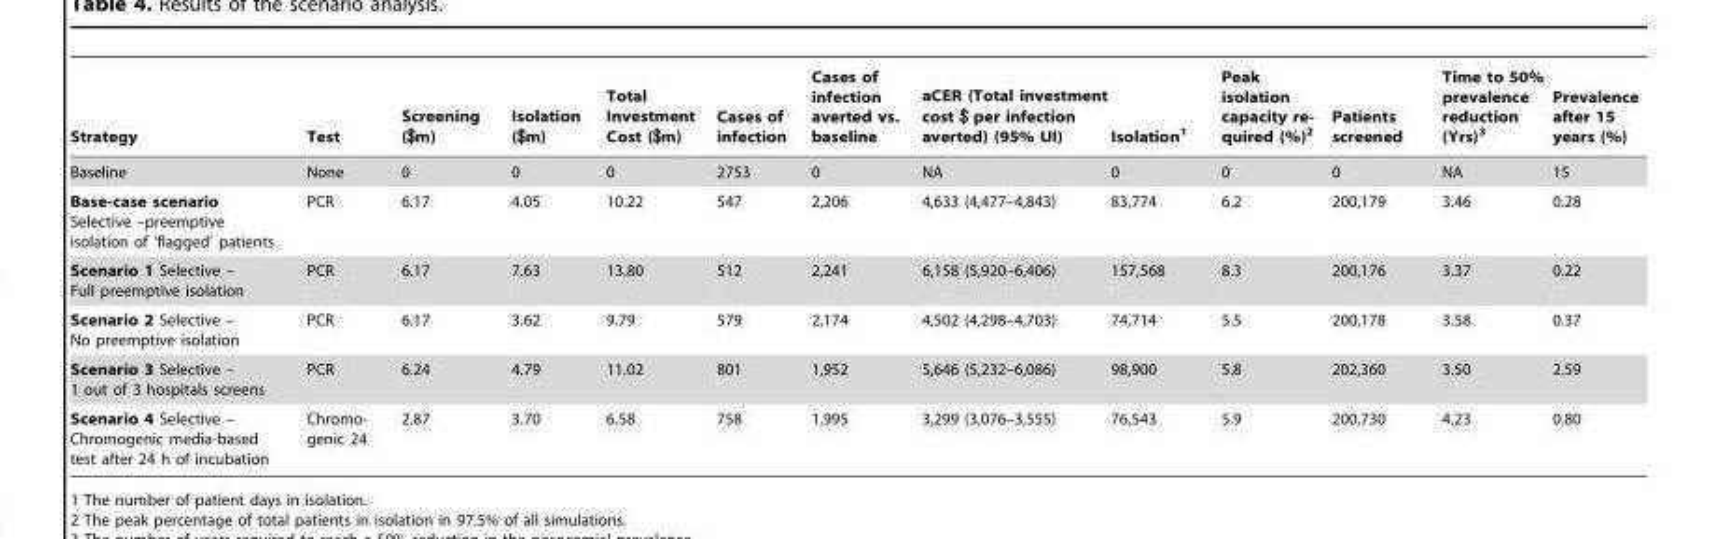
<table><thead><tr><td>Strategy</td><td>Test</td><td>Screening ($m)</td><td>Isolation ($m)</td><td>Total Investment Cost ($m)</td><td>Cases of infection</td><td>Cases of infection averted vs. baseline</td><td>aCER (Total investment cost $ per infection averted) (95% UI)</td><td>Isolation<sup>1</sup></td><td>Peak isolation capacity re- quired (%)2</td><td>Patients screened</td><td>Time to 50% prevalence reduction (Yrs)<sup>3</sup></td><td>Prevalence after 15 years (%)</td></tr></thead><tbody><tr><td>Baseline</td><td>None</td><td>0</td><td>0</td><td>0</td><td>2753</td><td>0</td><td>NA</td><td>0</td><td>0</td><td>0</td><td>NA</td><td>15</td></tr><tr><td>Base-case scenario Selective –preemptive isolation of ‘flagged’ patients</td><td>PCR</td><td>6.17</td><td>4.05</td><td>10.22</td><td>547</td><td>2,206</td><td>4,633 (4,477–4,843)</td><td>83,774</td><td>6.2</td><td>200,179</td><td>3.46</td><td>0.28</td></tr><tr><td>Scenario 1 Selective – Full preemptive isolation</td><td>PCR</td><td>6.17</td><td>7.63</td><td>13.80</td><td>512</td><td>2,241</td><td>6,158 (5,920–6,406)</td><td>157,568</td><td>8.3</td><td>200,176</td><td>3.37</td><td>0.22</td></tr><tr><td>Scenario 2 Selective – No preemptive isolation</td><td>PCR</td><td>6.17</td><td>3.62</td><td>9.79</td><td>579</td><td>2,174</td><td>4,502 (4,298–4,703)</td><td>74,714</td><td>5.5</td><td>200,178</td><td>3.58</td><td>0.37</td></tr><tr><td>Scenario 3 Selective – 1 out of 3 hospitals screens</td><td>PCR</td><td>6.24</td><td>4.79</td><td>11.02</td><td>801</td><td>1,952</td><td>5,646 (5,232–6,086)</td><td>98,900</td><td>5.8</td><td>202,360</td><td>3.50</td><td>2.59</td></tr><tr><td>Scenario 4 Selective – Chromogenic media-based test after 24 h of incubation</td><td>Chromo- genic 24</td><td>2.87</td><td>3.70</td><td>6.58</td><td>758</td><td>1,995</td><td>3,299 (3,076–3,555)</td><td>76,543</td><td>5.9</td><td>200,730</td><td>4.23</td><td>0.80</td></tr></tbody></table>